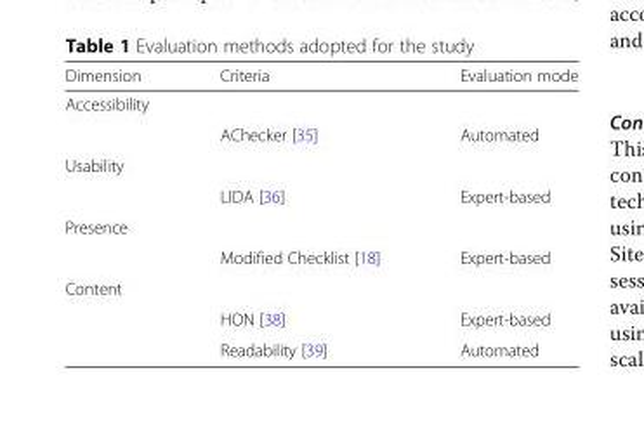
<table><thead><tr><td>Dimension</td><td>Criteria</td><td>Evaluation mode</td></tr></thead><tbody><tr><td colspan="3">Accessibility</td></tr><tr><td></td><td>AChecker [35]</td><td>Automated</td></tr><tr><td colspan="3">Usability</td></tr><tr><td></td><td>LIDA [36]</td><td>Expert-based</td></tr><tr><td colspan="3">Presence</td></tr><tr><td></td><td>Modified Checklist [18]</td><td>Expert-based</td></tr><tr><td colspan="3">Content</td></tr><tr><td rowspan="2"></td><td>HON [38]</td><td>Expert-based</td></tr><tr><td>Readability [39]</td><td>Automated</td></tr></tbody></table>